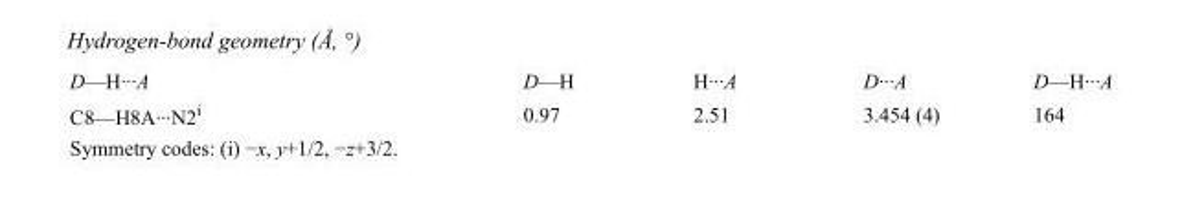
<table><tbody><tr><td>D—H···A</td><td>D—H</td><td>H···A</td><td>D···A</td><td>D—H···A</td></tr><tr><td>C8—H8A···N2<sup>i</sup></td><td>0.97</td><td>2.51</td><td>3.454 (4)</td><td>164</td></tr></tbody></table>